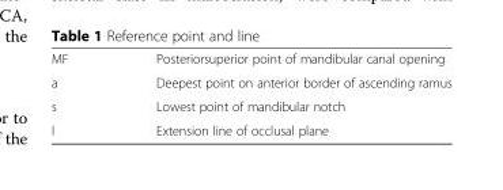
<table><tbody><tr><td>MF</td><td>Posteriorsuperior point of mandibular canal opening</td></tr><tr><td>a</td><td>Deepest point on anterior border of ascending ramus</td></tr><tr><td>s</td><td>Lowest point of mandibular notch</td></tr><tr><td>l</td><td>Extension line of occlusal plane</td></tr></tbody></table>